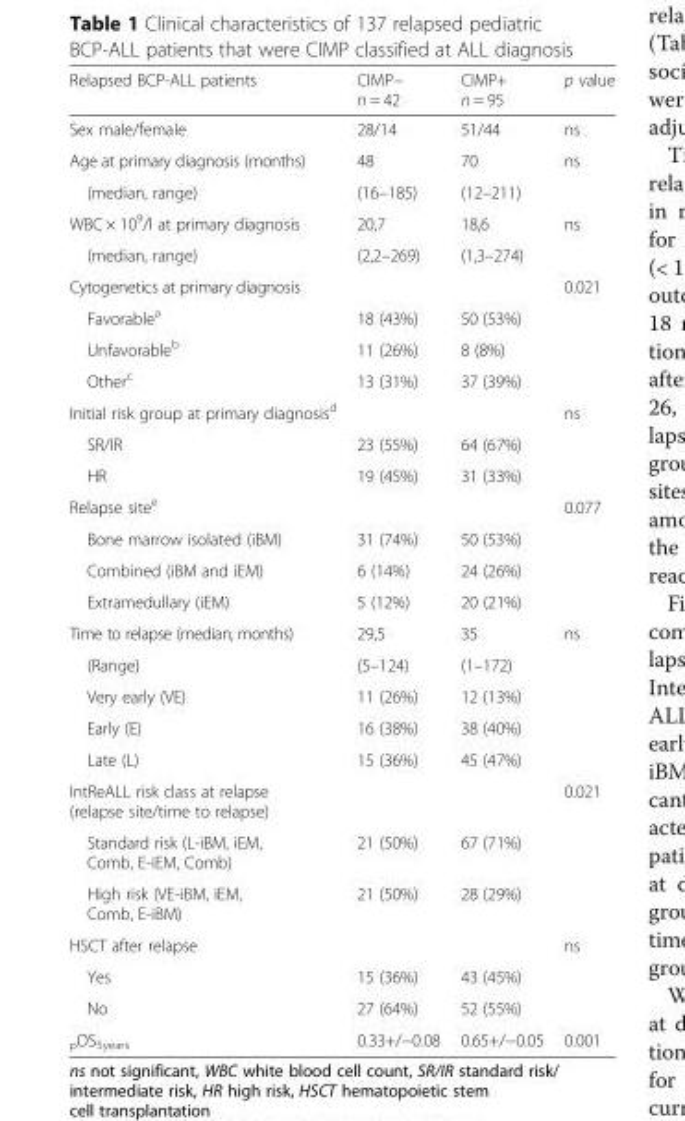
<table><thead><tr><td>Relapsed BCP-ALL patients</td><td>CIMP− n = 42</td><td>CIMP+ n = 95</td><td>p value</td></tr></thead><tbody><tr><td>Sex male/female</td><td>28/14</td><td>51/44</td><td>ns</td></tr><tr><td>Age at primary diagnosis (months)</td><td>48</td><td>70</td><td>ns</td></tr><tr><td>(median, range)</td><td>(16–185)</td><td>(12–211)</td><td></td></tr><tr><td>WBC × 10<sup>9</sup>/l at primary diagnosis</td><td>20,7</td><td>18,6</td><td>ns</td></tr><tr><td>(median, range)</td><td>(2,2–269)</td><td>(1,3–274)</td><td></td></tr><tr><td>Cytogenetics at primary diagnosis</td><td></td><td></td><td>0.021</td></tr><tr><td>Favorable<sup>a</sup></td><td>18 (43%)</td><td>50 (53%)</td><td></td></tr><tr><td>Unfavorable<sup>b</sup></td><td>11 (26%)</td><td>8 (8%)</td><td></td></tr><tr><td>Other<sup>c</sup></td><td>13 (31%)</td><td>37 (39%)</td><td></td></tr><tr><td>Initial risk group at primary diagnosis<sup>d</sup></td><td></td><td></td><td>ns</td></tr><tr><td>SR/IR</td><td>23 (55%)</td><td>64 (67%)</td><td></td></tr><tr><td>HR</td><td>19 (45%)</td><td>31 (33%)</td><td></td></tr><tr><td>Relapse site<sup>e</sup></td><td></td><td></td><td>0.077</td></tr><tr><td>Bone marrow isolated (iBM)</td><td>31 (74%)</td><td>50 (53%)</td><td></td></tr><tr><td>Combined (iBM and iEM)</td><td>6 (14%)</td><td>24 (26%)</td><td></td></tr><tr><td>Extramedullary (iEM)</td><td>5 (12%)</td><td>20 (21%)</td><td></td></tr><tr><td>Time to relapse (median, months)</td><td>29,5</td><td>35</td><td>ns</td></tr><tr><td>(Range)</td><td>(5–124)</td><td>(1–172)</td><td></td></tr><tr><td>Very early (VE)</td><td>11 (26%)</td><td>12 (13%)</td><td></td></tr><tr><td>Early (E)</td><td>16 (38%)</td><td>38 (40%)</td><td></td></tr><tr><td>Late (L)</td><td>15 (36%)</td><td>45 (47%)</td><td></td></tr><tr><td>IntReALL risk class at relapse (relapse site/time to relapse)</td><td></td><td></td><td>0.021</td></tr><tr><td>Standard risk (L-iBM, iEM, Comb, E-iEM, Comb)</td><td>21 (50%)</td><td>67 (71%)</td><td></td></tr><tr><td>High risk (VE-iBM, iEM, Comb, E-iBM)</td><td>21 (50%)</td><td>28 (29%)</td><td></td></tr><tr><td>HSCT after relapse</td><td></td><td></td><td>ns</td></tr><tr><td>Yes</td><td>15 (36%)</td><td>43 (45%)</td><td></td></tr><tr><td>No</td><td>27 (64%)</td><td>52 (55%)</td><td></td></tr><tr><td><sub>p</sub>OS<sub>5years</sub></td><td>0.33+/−0.08</td><td>0.65+/−0.05</td><td>0.001</td></tr></tbody></table>